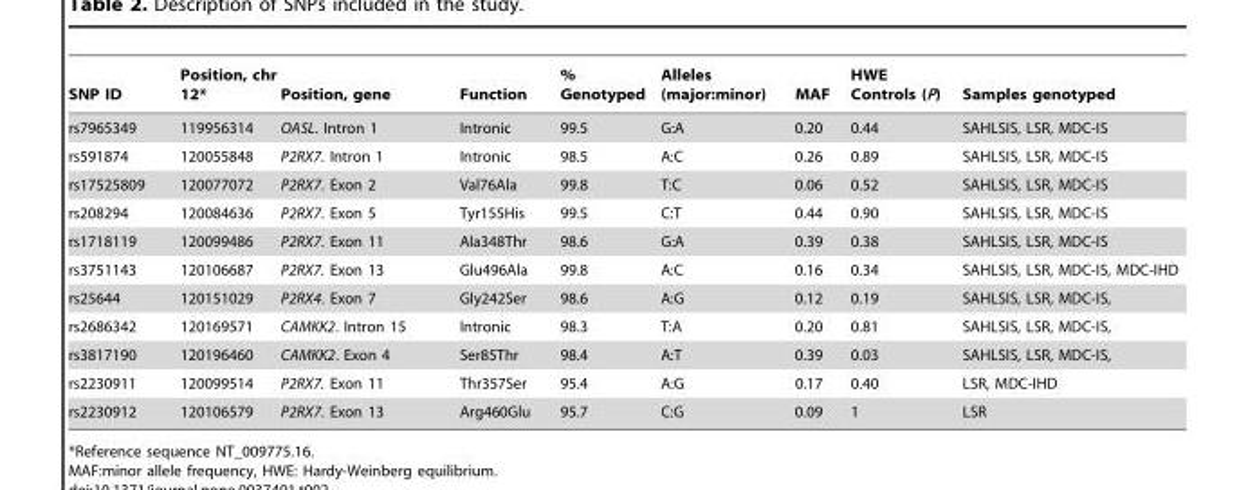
<table><thead><tr><td>SNP ID</td><td>Position, chr 12*</td><td>Position, gene</td><td>Function</td><td>% Genotyped</td><td>Alleles (major:minor)</td><td>MAF</td><td>HWE Controls (P)</td><td>Samples genotyped</td></tr></thead><tbody><tr><td>rs7965349</td><td>119956314</td><td>OASL. Intron 1</td><td>Intronic</td><td>99.5</td><td>G:A</td><td>0.20</td><td>0.44</td><td>SAHLSIS, LSR, MDC-IS</td></tr><tr><td>rs591874</td><td>120055848</td><td>P2RX7. Intron 1</td><td>Intronic</td><td>98.5</td><td>A:C</td><td>0.26</td><td>0.89</td><td>SAHLSIS, LSR, MDC-IS</td></tr><tr><td>rs17525809</td><td>120077072</td><td>P2RX7. Exon 2</td><td>Val76Ala</td><td>99.8</td><td>T:C</td><td>0.06</td><td>0.52</td><td>SAHLSIS, LSR, MDC-IS</td></tr><tr><td>rs208294</td><td>120084636</td><td>P2RX7. Exon 5</td><td>Tyr155His</td><td>99.5</td><td>C:T</td><td>0.44</td><td>0.90</td><td>SAHLSIS, LSR, MDC-IS</td></tr><tr><td>rs1718119</td><td>120099486</td><td>P2RX7. Exon 11</td><td>Ala348Thr</td><td>98.6</td><td>G:A</td><td>0.39</td><td>0.38</td><td>SAHLSIS, LSR, MDC-IS</td></tr><tr><td>rs3751143</td><td>120106687</td><td>P2RX7. Exon 13</td><td>Glu496Ala</td><td>99.8</td><td>A:C</td><td>0.16</td><td>0.34</td><td>SAHLSIS, LSR, MDC-IS, MDC-IHD</td></tr><tr><td>rs25644</td><td>120151029</td><td>P2RX4. Exon 7</td><td>Gly242Ser</td><td>98.6</td><td>A:G</td><td>0.12</td><td>0.19</td><td>SAHLSIS, LSR, MDC-IS,</td></tr><tr><td>rs2686342</td><td>120169571</td><td>CAMKK2. Intron 15</td><td>Intronic</td><td>98.3</td><td>T:A</td><td>0.20</td><td>0.81</td><td>SAHLSIS, LSR, MDC-IS,</td></tr><tr><td>rs3817190</td><td>120196460</td><td>CAMKK2. Exon 4</td><td>Ser85Thr</td><td>98.4</td><td>A:T</td><td>0.39</td><td>0.03</td><td>SAHLSIS, LSR, MDC-IS,</td></tr><tr><td>rs2230911</td><td>120099514</td><td>P2RX7. Exon 11</td><td>Thr357Ser</td><td>95.4</td><td>A:G</td><td>0.17</td><td>0.40</td><td>LSR, MDC-IHD</td></tr><tr><td>rs2230912</td><td>120106579</td><td>P2RX7. Exon 13</td><td>Arg460Glu</td><td>95.7</td><td>C:G</td><td>0.09</td><td>1</td><td>LSR</td></tr></tbody></table>